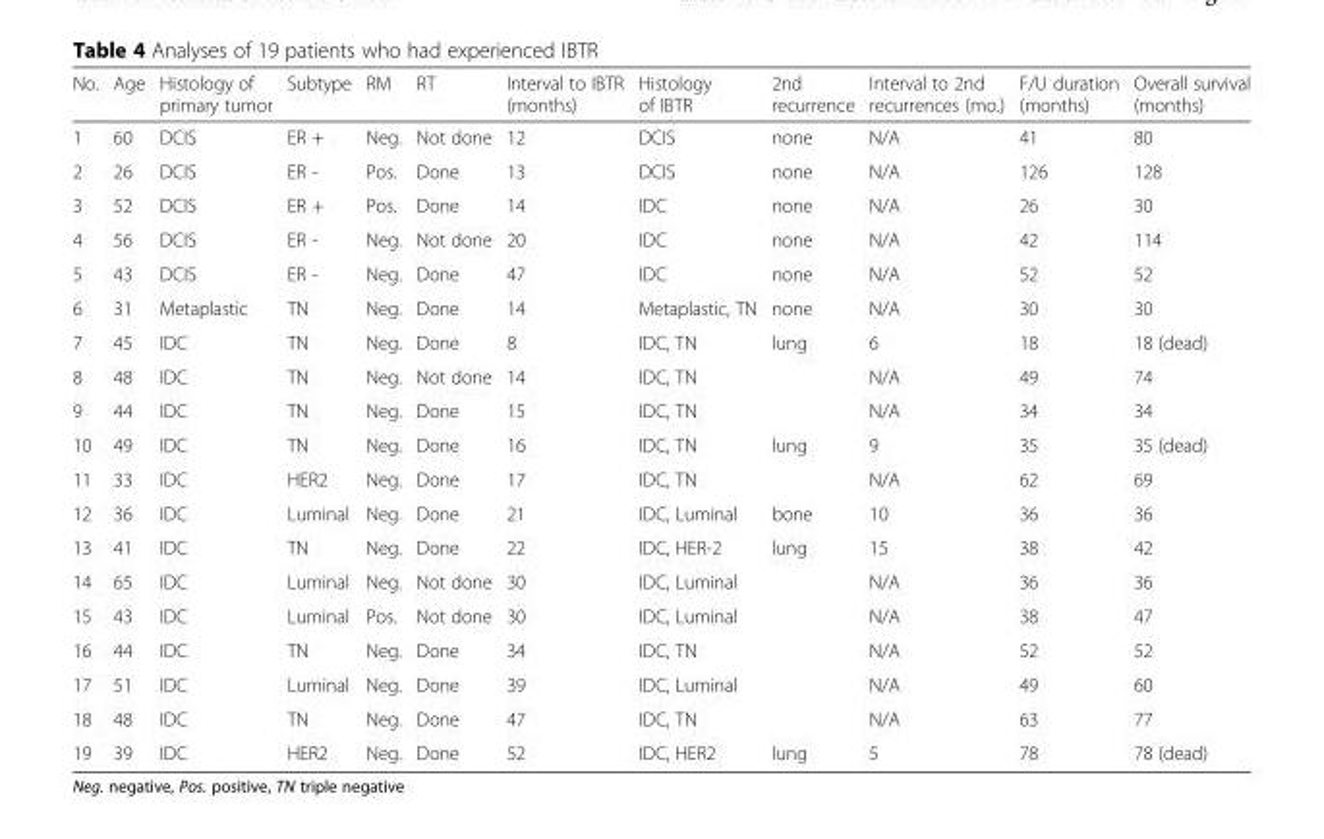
<table><thead><tr><td>No.</td><td>Age</td><td>Histology of primary tumor</td><td>Subtype</td><td>RM</td><td>RT</td><td>Interval to IBTR (months)</td><td>Histology of IBTR</td><td>2nd recurrence</td><td>Interval to 2nd recurrences (mo.)</td><td>F/U duration (months)</td><td>Overall survival (months)</td></tr></thead><tbody><tr><td>1</td><td>60</td><td>DCIS</td><td>ER +</td><td>Neg.</td><td>Not done</td><td>12</td><td>DCIS</td><td>none</td><td>N/A</td><td>41</td><td>80</td></tr><tr><td>2</td><td>26</td><td>DCIS</td><td>ER -</td><td>Pos.</td><td>Done</td><td>13</td><td>DCIS</td><td>none</td><td>N/A</td><td>126</td><td>128</td></tr><tr><td>3</td><td>52</td><td>DCIS</td><td>ER +</td><td>Pos.</td><td>Done</td><td>14</td><td>IDC</td><td>none</td><td>N/A</td><td>26</td><td>30</td></tr><tr><td>4</td><td>56</td><td>DCIS</td><td>ER -</td><td>Neg.</td><td>Not done</td><td>20</td><td>IDC</td><td>none</td><td>N/A</td><td>42</td><td>114</td></tr><tr><td>5</td><td>43</td><td>DCIS</td><td>ER -</td><td>Neg.</td><td>Done</td><td>47</td><td>IDC</td><td>none</td><td>N/A</td><td>52</td><td>52</td></tr><tr><td>6</td><td>31</td><td>Metaplastic</td><td>TN</td><td>Neg.</td><td>Done</td><td>14</td><td>Metaplastic, TN</td><td>none</td><td>N/A</td><td>30</td><td>30</td></tr><tr><td>7</td><td>45</td><td>IDC</td><td>TN</td><td>Neg.</td><td>Done</td><td>8</td><td>IDC, TN</td><td>lung</td><td>6</td><td>18</td><td>18 (dead)</td></tr><tr><td>8</td><td>48</td><td>IDC</td><td>TN</td><td>Neg.</td><td>Not done</td><td>14</td><td>IDC, TN</td><td></td><td>N/A</td><td>49</td><td>74</td></tr><tr><td>9</td><td>44</td><td>IDC</td><td>TN</td><td>Neg.</td><td>Done</td><td>15</td><td>IDC, TN</td><td></td><td>N/A</td><td>34</td><td>34</td></tr><tr><td>10</td><td>49</td><td>IDC</td><td>TN</td><td>Neg.</td><td>Done</td><td>16</td><td>IDC, TN</td><td>lung</td><td>9</td><td>35</td><td>35 (dead)</td></tr><tr><td>11</td><td>33</td><td>IDC</td><td>HER2</td><td>Neg.</td><td>Done</td><td>17</td><td>IDC, TN</td><td></td><td>N/A</td><td>62</td><td>69</td></tr><tr><td>12</td><td>36</td><td>IDC</td><td>Luminal</td><td>Neg.</td><td>Done</td><td>21</td><td>IDC, Luminal</td><td>bone</td><td>10</td><td>36</td><td>36</td></tr><tr><td>13</td><td>41</td><td>IDC</td><td>TN</td><td>Neg.</td><td>Done</td><td>22</td><td>IDC, HER-2</td><td>lung</td><td>15</td><td>38</td><td>42</td></tr><tr><td>14</td><td>65</td><td>IDC</td><td>Luminal</td><td>Neg.</td><td>Not done</td><td>30</td><td>IDC, Luminal</td><td></td><td>N/A</td><td>36</td><td>36</td></tr><tr><td>15</td><td>43</td><td>IDC</td><td>Luminal</td><td>Pos.</td><td>Not done</td><td>30</td><td>IDC, Luminal</td><td></td><td>N/A</td><td>38</td><td>47</td></tr><tr><td>16</td><td>44</td><td>IDC</td><td>TN</td><td>Neg.</td><td>Done</td><td>34</td><td>IDC, TN</td><td></td><td>N/A</td><td>52</td><td>52</td></tr><tr><td>17</td><td>51</td><td>IDC</td><td>Luminal</td><td>Neg.</td><td>Done</td><td>39</td><td>IDC, Luminal</td><td></td><td>N/A</td><td>49</td><td>60</td></tr><tr><td>18</td><td>48</td><td>IDC</td><td>TN</td><td>Neg.</td><td>Done</td><td>47</td><td>IDC, TN</td><td></td><td>N/A</td><td>63</td><td>77</td></tr><tr><td>19</td><td>39</td><td>IDC</td><td>HER2</td><td>Neg.</td><td>Done</td><td>52</td><td>IDC, HER2</td><td>lung</td><td>5</td><td>78</td><td>78 (dead)</td></tr></tbody></table>